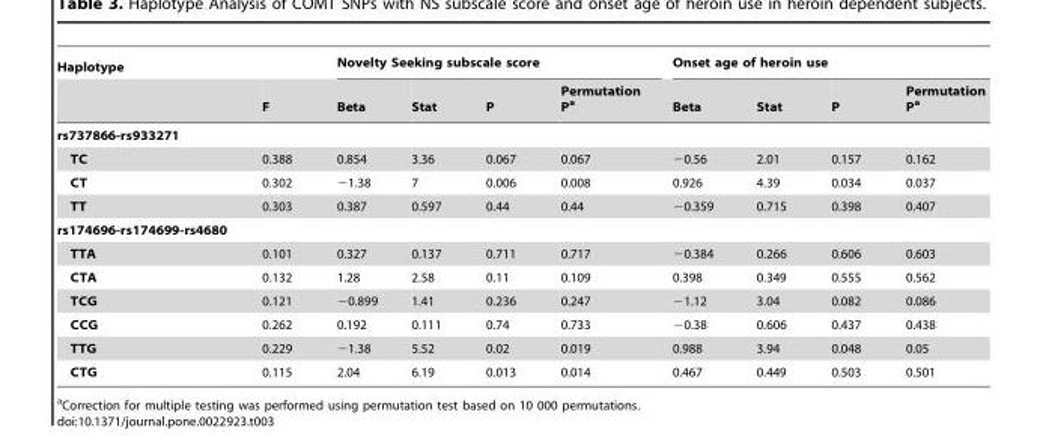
<table><thead><tr><td rowspan="2">Haplotype</td><td rowspan="2">F</td><td colspan="4">Novelty Seeking subscale score</td><td colspan="4">Onset age of heroin use</td></tr><tr><td>Beta</td><td>Stat</td><td>P</td><td>Permutation P<sup>a</sup></td><td>Beta</td><td>Stat</td><td>P</td><td>Permutation P<sup>a</sup></td></tr></thead><tbody><tr><td colspan="10">rs737866-rs933271</td></tr><tr><td>TC</td><td>0.388</td><td>0.854</td><td>3.36</td><td>0.067</td><td>0.067</td><td>−0.56</td><td>2.01</td><td>0.157</td><td>0.162</td></tr><tr><td>CT</td><td>0.302</td><td>−1.38</td><td>7</td><td>0.006</td><td>0.008</td><td>0.926</td><td>4.39</td><td>0.034</td><td>0.037</td></tr><tr><td>TT</td><td>0.303</td><td>0.387</td><td>0.597</td><td>0.44</td><td>0.44</td><td>−0.359</td><td>0.715</td><td>0.398</td><td>0.407</td></tr><tr><td colspan="10">rs174696-rs174699-rs4680</td></tr><tr><td>TTA</td><td>0.101</td><td>0.327</td><td>0.137</td><td>0.711</td><td>0.717</td><td>−0.384</td><td>0.266</td><td>0.606</td><td>0.603</td></tr><tr><td>CTA</td><td>0.132</td><td>1.28</td><td>2.58</td><td>0.11</td><td>0.109</td><td>0.398</td><td>0.349</td><td>0.555</td><td>0.562</td></tr><tr><td>TCG</td><td>0.121</td><td>−0.899</td><td>1.41</td><td>0.236</td><td>0.247</td><td>−1.12</td><td>3.04</td><td>0.082</td><td>0.086</td></tr><tr><td>CCG</td><td>0.262</td><td>0.192</td><td>0.111</td><td>0.74</td><td>0.733</td><td>−0.38</td><td>0.606</td><td>0.437</td><td>0.438</td></tr><tr><td>TTG</td><td>0.229</td><td>−1.38</td><td>5.52</td><td>0.02</td><td>0.019</td><td>0.988</td><td>3.94</td><td>0.048</td><td>0.05</td></tr><tr><td>CTG</td><td>0.115</td><td>2.04</td><td>6.19</td><td>0.013</td><td>0.014</td><td>0.467</td><td>0.449</td><td>0.503</td><td>0.501</td></tr></tbody></table>